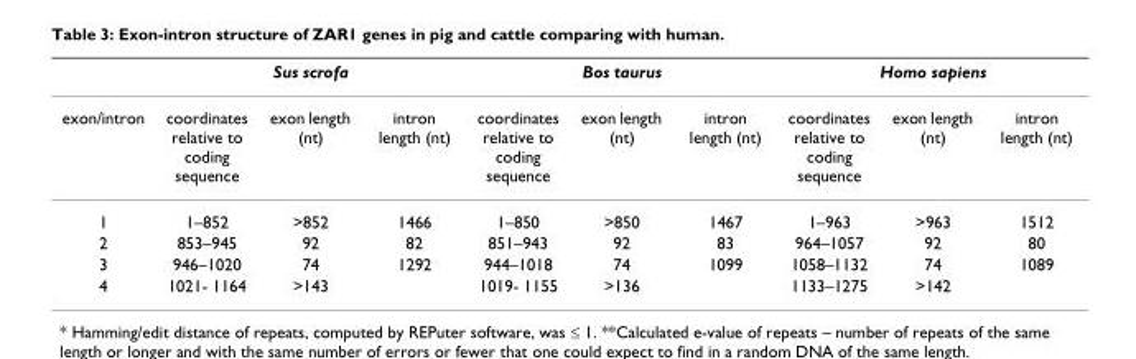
<table><thead><tr><td rowspan="2">exon/intron</td><td colspan="3">Sus scrofa</td><td colspan="3">Bos taurus</td><td colspan="3">Homo sapiens</td></tr><tr><td>coordinates relative to coding sequence</td><td>exon length (nt)</td><td>intron length (nt)</td><td>coordinates relative to coding sequence</td><td>exon length (nt)</td><td>intron length (nt)</td><td>coordinates relative to coding sequence</td><td>exon length (nt)</td><td>intron length (nt)</td></tr></thead><tbody><tr><td>1</td><td>1–852</td><td>&gt;852</td><td>1466</td><td>1–850</td><td>&gt;850</td><td>1467</td><td>1–963</td><td>&gt;963</td><td>1512</td></tr><tr><td>2</td><td>853–945</td><td>92</td><td>82</td><td>851–943</td><td>92</td><td>83</td><td>964–1057</td><td>92</td><td>80</td></tr><tr><td>3</td><td>946–1020</td><td>74</td><td>1292</td><td>944–1018</td><td>74</td><td>1099</td><td>1058–1132</td><td>74</td><td>1089</td></tr><tr><td>4</td><td>1021- 1164</td><td>&gt;143</td><td></td><td>1019- 1155</td><td>&gt;136</td><td></td><td>1133–1275</td><td>&gt;142</td><td></td></tr></tbody></table>